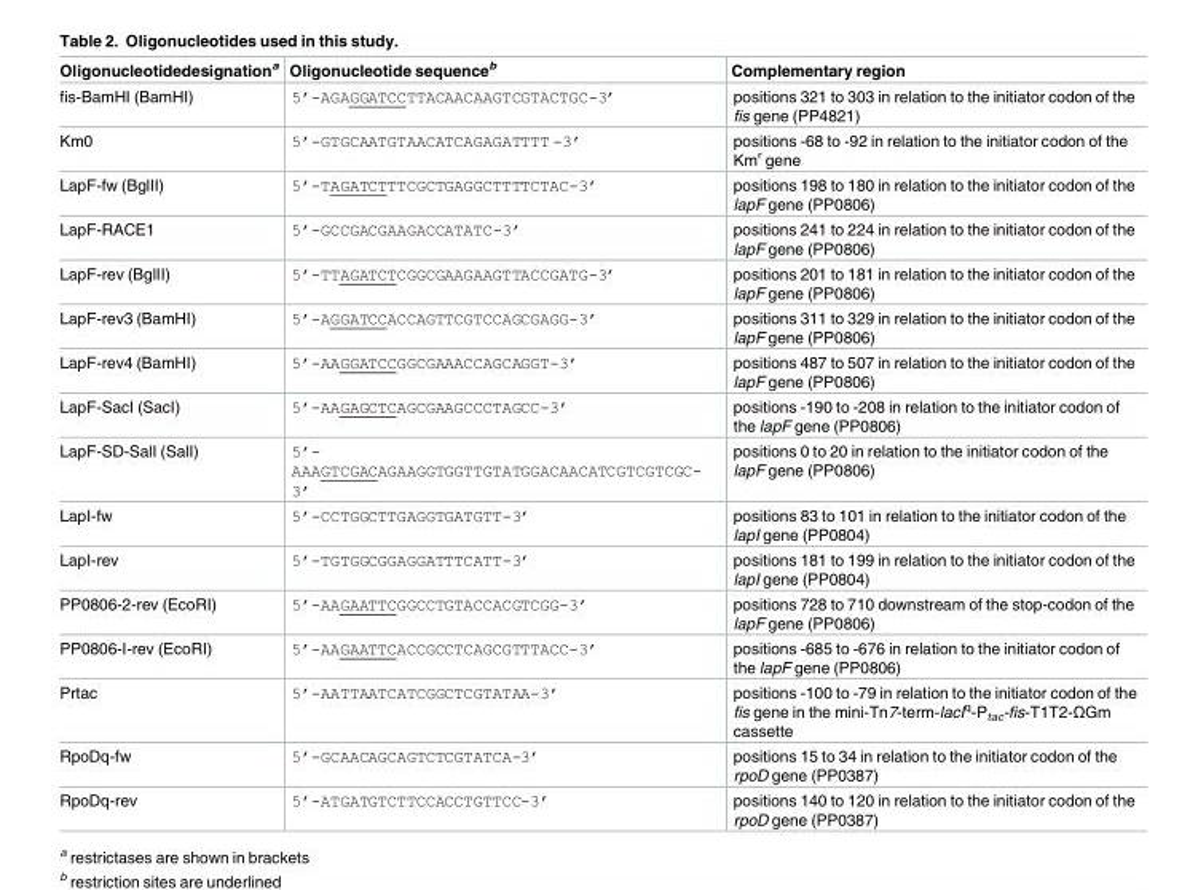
<table><thead><tr><td>Oligonucleotidedesignation<sup>a</sup></td><td>Oligonucleotide sequence<sup>b</sup></td><td>Complementary region</td></tr></thead><tbody><tr><td>fis-BamHI (BamHI)</td><td>5’-AGAGGATCCTTACAACAAGTCGTACTGC-3’</td><td>positions 321 to 303 in relation to the initiator codon of the fis gene (PP4821)</td></tr><tr><td>Km0</td><td>5’-GTGCAATGTAACATCAGAGATTTT -3’</td><td>positions -68 to -92 in relation to the initiator codon of the Km<sup>r</sup> gene</td></tr><tr><td>LapF-fw (BglII)</td><td>5’-TAGATCTTTCGCTGAGGCTTTTCTAC-3’</td><td>positions 198 to 180 in relation to the initiator codon of the lapF gene (PP0806)</td></tr><tr><td>LapF-RACE1</td><td>5’-GCCGACGAAGACCATATC-3’</td><td>positions 241 to 224 in relation to the initiator codon of the lapF gene (PP0806)</td></tr><tr><td>LapF-rev (BglII)</td><td>5’-TTAGATCTCGGCGAAGAAGTTACCGATG-3’</td><td>positions 201 to 181 in relation to the initiator codon of the lapF gene (PP0806)</td></tr><tr><td>LapF-rev3 (BamHI)</td><td>5’-AGGATCCACCAGTTCGTCCAGCGAGG-3’</td><td>positions 311 to 329 in relation to the initiator codon of the lapF gene (PP0806)</td></tr><tr><td>LapF-rev4 (BamHI)</td><td>5’-AAGGATCCGGCGAAACCAGCAGGT-3’</td><td>positions 487 to 507 in relation to the initiator codon of the lapF gene (PP0806)</td></tr><tr><td>LapF-SacI (SacI)</td><td>5’-AAGAGCTCAGCGAAGCCCTAGCC-3’</td><td>positions -190 to -208 in relation to the initiator codon of the lapF gene (PP0806)</td></tr><tr><td>LapF-SD-SalI (SalI)</td><td>5’- AAAGTCGACAGAAGGTGGTTGTATGGACAACATCGTCGTCGC- 3’</td><td>positions 0 to 20 in relation to the initiator codon of the lapF gene (PP0806)</td></tr><tr><td>LapI-fw</td><td>5’-CCTGGCTTGAGGTGATGTT-3’</td><td>positions 83 to 101 in relation to the initiator codon of the lapI gene (PP0804)</td></tr><tr><td>LapI-rev</td><td>5’-TGTGGCGGAGGATTTCATT-3’</td><td>positions 181 to 199 in relation to the initiator codon of the lapI gene (PP0804)</td></tr><tr><td>PP0806-2-rev (EcoRI)</td><td>5’-AAGAATTCGGCCTGTACCACGTCGG-3’</td><td>positions 728 to 710 downstream of the stop-codon of the lapF gene (PP0806)</td></tr><tr><td>PP0806-I-rev (EcoRI)</td><td>5’-AAGAATTCACCGCCTCAGCGTTTACC-3’</td><td>positions -685 to -676 in relation to the initiator codon of the lapF gene (PP0806)</td></tr><tr><td>Prtac</td><td>5’-AATTAATCATCGGCTCGTATAA-3’</td><td>positions -100 to -79 in relation to the initiator codon of the fis gene in the mini-Tn7-term-lacI<sup>q</sup>-P<sub>tac</sub>-fis-T1T2-ΩGm cassette</td></tr><tr><td>RpoDq-fw</td><td>5’-GCAACAGCAGTCTCGTATCA-3’</td><td>positions 15 to 34 in relation to the initiator codon of the rpoD gene (PP0387)</td></tr><tr><td>RpoDq-rev</td><td>5’-ATGATGTCTTCCACCTGTTCC-3’</td><td>positions 140 to 120 in relation to the initiator codon of the rpoD gene (PP0387)</td></tr></tbody></table>